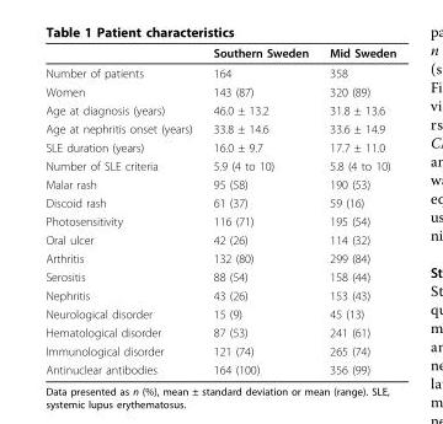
<table><thead><tr><td></td><td>Southern Sweden</td><td>Mid Sweden</td></tr></thead><tbody><tr><td>Number of patients</td><td>164</td><td>358</td></tr><tr><td>Women</td><td>143 (87)</td><td>320 (89)</td></tr><tr><td>Age at diagnosis (years)</td><td>46.0 ± 13.2</td><td>31.8 ± 13.6</td></tr><tr><td>Age at nephritis onset (years)</td><td>33.8 ± 14.6</td><td>33.6 ± 14.9</td></tr><tr><td>SLE duration (years)</td><td>16.0 ± 9.7</td><td>17.7 ± 11.0</td></tr><tr><td>Number of SLE criteria</td><td>5.9 (4 to 10)</td><td>5.8 (4 to 10)</td></tr><tr><td>Malar rash</td><td>95 (58)</td><td>190 (53)</td></tr><tr><td>Discoid rash</td><td>61 (37)</td><td>59 (16)</td></tr><tr><td>Photosensitivity</td><td>116 (71)</td><td>195 (54)</td></tr><tr><td>Oral ulcer</td><td>42 (26)</td><td>114 (32)</td></tr><tr><td>Arthritis</td><td>132 (80)</td><td>299 (84)</td></tr><tr><td>Serositis</td><td>88 (54)</td><td>158 (44)</td></tr><tr><td>Nephritis</td><td>43 (26)</td><td>153 (43)</td></tr><tr><td>Neurological disorder</td><td>15 (9)</td><td>45 (13)</td></tr><tr><td>Hematological disorder</td><td>87 (53)</td><td>241 (61)</td></tr><tr><td>Immunological disorder</td><td>121 (74)</td><td>265 (74)</td></tr><tr><td>Antinuclear antibodies</td><td>164 (100)</td><td>356 (99)</td></tr></tbody></table>